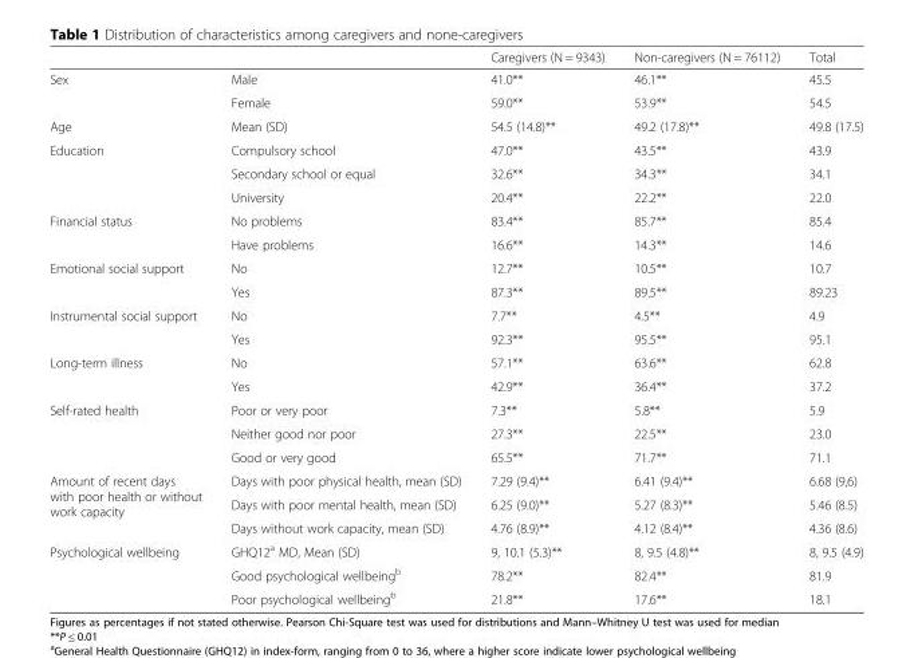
<table><thead><tr><td></td><td></td><td>Caregivers (N = 9343)</td><td>Non-caregivers (N = 76112)</td><td>Total</td></tr></thead><tbody><tr><td rowspan="2">Sex</td><td>Male</td><td>41.0**</td><td>46.1**</td><td>45.5</td></tr><tr><td>Female</td><td>59.0**</td><td>53.9**</td><td>54.5</td></tr><tr><td>Age</td><td>Mean (SD)</td><td>54.5 (14.8)**</td><td>49.2 (17.8)**</td><td>49.8 (17.5)</td></tr><tr><td rowspan="3">Education</td><td>Compulsory school</td><td>47.0**</td><td>43.5**</td><td>43.9</td></tr><tr><td>Secondary school or equal</td><td>32.6**</td><td>34.3**</td><td>34.1</td></tr><tr><td>University</td><td>20.4**</td><td>22.2**</td><td>22.0</td></tr><tr><td rowspan="2">Financial status</td><td>No problems</td><td>83.4**</td><td>85.7**</td><td>85.4</td></tr><tr><td>Have problems</td><td>16.6**</td><td>14.3**</td><td>14.6</td></tr><tr><td rowspan="2">Emotional social support</td><td>No</td><td>12.7**</td><td>10.5**</td><td>10.7</td></tr><tr><td>Yes</td><td>87.3**</td><td>89.5**</td><td>89.23</td></tr><tr><td rowspan="2">Instrumental social support</td><td>No</td><td>7.7**</td><td>4.5**</td><td>4.9</td></tr><tr><td>Yes</td><td>92.3**</td><td>95.5**</td><td>95.1</td></tr><tr><td rowspan="2">Long-term illness</td><td>No</td><td>57.1**</td><td>63.6**</td><td>62.8</td></tr><tr><td>Yes</td><td>42.9**</td><td>36.4**</td><td>37.2</td></tr><tr><td rowspan="3">Self-rated health</td><td>Poor or very poor</td><td>7.3**</td><td>5.8**</td><td>5.9</td></tr><tr><td>Neither good nor poor</td><td>27.3**</td><td>22.5**</td><td>23.0</td></tr><tr><td>Good or very good</td><td>65.5**</td><td>71.7**</td><td>71.1</td></tr><tr><td rowspan="3">Amount of recent days with poor health or without work capacity</td><td>Days with poor physical health, mean (SD)</td><td>7.29 (9.4)**</td><td>6.41 (9.4)**</td><td>6.68 (9,6)</td></tr><tr><td>Days with poor mental health, mean (SD)</td><td>6.25 (9.0)**</td><td>5.27 (8.3)**</td><td>5.46 (8.5)</td></tr><tr><td>Days without work capacity, mean (SD)</td><td>4.76 (8.9)**</td><td>4.12 (8.4)**</td><td>4.36 (8.6)</td></tr><tr><td rowspan="3">Psychological wellbeing</td><td>GHQ12<sup>a</sup> MD, Mean (SD)</td><td>9, 10.1 (5.3)**</td><td>8, 9.5 (4.8)**</td><td>8, 9.5 (4.9)</td></tr><tr><td>Good psychological wellbeing<sup>b</sup></td><td>78.2**</td><td>82.4**</td><td>81.9</td></tr><tr><td>Poor psychological wellbeing<sup>b</sup></td><td>21.8**</td><td>17.6**</td><td>18.1</td></tr></tbody></table>